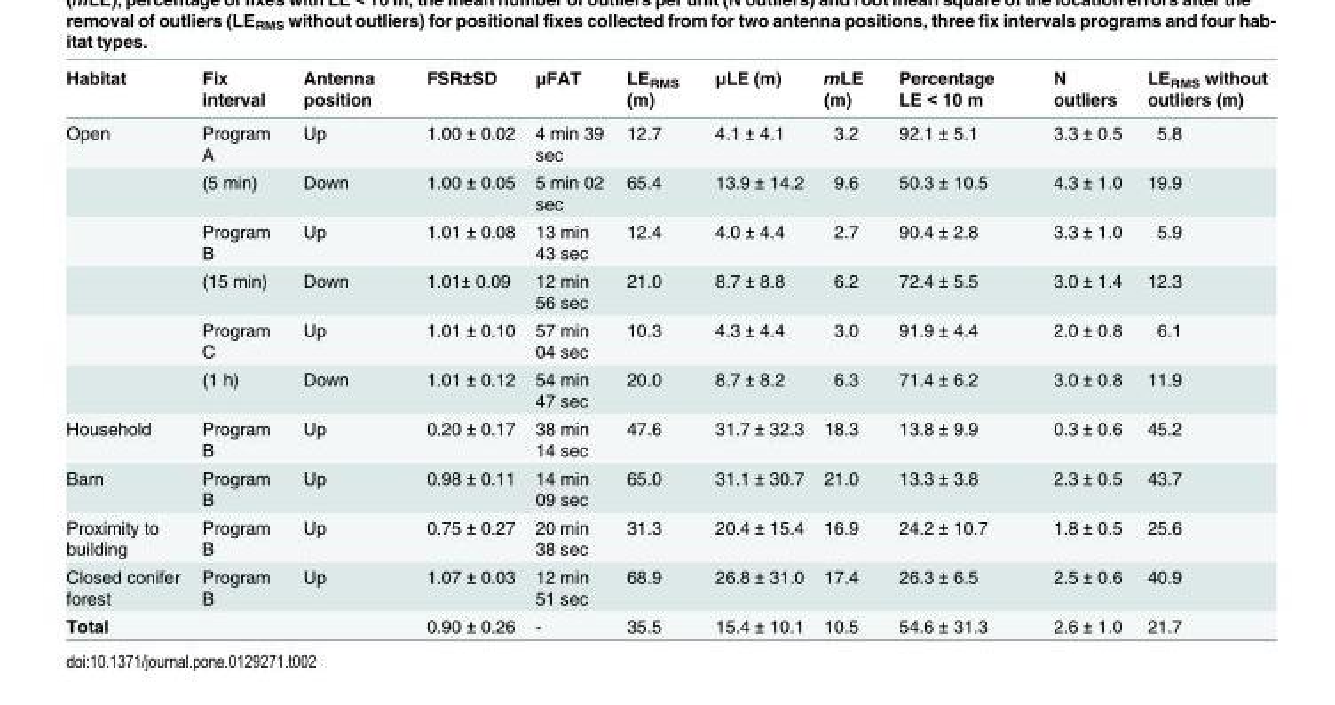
<table><thead><tr><td>Habitat</td><td>Fix interval</td><td>Antenna position</td><td>FSR±SD</td><td>μFAT</td><td>LE<sub>RMS</sub> (m)</td><td>μLE (m)</td><td>mLE (m)</td><td>Percentage LE &lt; 10 m</td><td>N outliers</td><td>LE<sub>RMS</sub> without outliers (m)</td></tr></thead><tbody><tr><td rowspan="6">Open</td><td>Program A</td><td>Up</td><td>1.00 ± 0.02</td><td>4 min 39 sec</td><td>12.7</td><td>4.1 ± 4.1</td><td>3.2</td><td>92.1 ± 5.1</td><td>3.3 ± 0.5</td><td>5.8</td></tr><tr><td>(5 min)</td><td>Down</td><td>1.00 ± 0.05</td><td>5 min 02 sec</td><td>65.4</td><td>13.9 ± 14.2</td><td>9.6</td><td>50.3 ± 10.5</td><td>4.3 ± 1.0</td><td>19.9</td></tr><tr><td>Program B</td><td>Up</td><td>1.01 ± 0.08</td><td>13 min 43 sec</td><td>12.4</td><td>4.0 ± 4.4</td><td>2.7</td><td>90.4 ± 2.8</td><td>3.3 ± 1.0</td><td>5.9</td></tr><tr><td>(15 min)</td><td>Down</td><td>1.01± 0.09</td><td>12 min 56 sec</td><td>21.0</td><td>8.7 ± 8.8</td><td>6.2</td><td>72.4 ± 5.5</td><td>3.0 ± 1.4</td><td>12.3</td></tr><tr><td>Program C</td><td>Up</td><td>1.01 ± 0.10</td><td>57 min 04 sec</td><td>10.3</td><td>4.3 ± 4.4</td><td>3.0</td><td>91.9 ± 4.4</td><td>2.0 ± 0.8</td><td>6.1</td></tr><tr><td>(1 h)</td><td>Down</td><td>1.01 ± 0.12</td><td>54 min 47 sec</td><td>20.0</td><td>8.7 ± 8.2</td><td>6.3</td><td>71.4 ± 6.2</td><td>3.0 ± 0.8</td><td>11.9</td></tr><tr><td>Household</td><td>Program B</td><td>Up</td><td>0.20 ± 0.17</td><td>38 min 14 sec</td><td>47.6</td><td>31.7 ± 32.3</td><td>18.3</td><td>13.8 ± 9.9</td><td>0.3 ± 0.6</td><td>45.2</td></tr><tr><td>Barn</td><td>Program B</td><td>Up</td><td>0.98 ± 0.11</td><td>14 min 09 sec</td><td>65.0</td><td>31.1 ± 30.7</td><td>21.0</td><td>13.3 ± 3.8</td><td>2.3 ± 0.5</td><td>43.7</td></tr><tr><td>Proximity to building</td><td>Program B</td><td>Up</td><td>0.75 ± 0.27</td><td>20 min 38 sec</td><td>31.3</td><td>20.4 ± 15.4</td><td>16.9</td><td>24.2 ± 10.7</td><td>1.8 ± 0.5</td><td>25.6</td></tr><tr><td>Closed conifer forest</td><td>Program B</td><td>Up</td><td>1.07 ± 0.03</td><td>12 min 51 sec</td><td>68.9</td><td>26.8 ± 31.0</td><td>17.4</td><td>26.3 ± 6.5</td><td>2.5 ± 0.6</td><td>40.9</td></tr><tr><td>Total</td><td></td><td></td><td>0.90 ± 0.26</td><td>-</td><td>35.5</td><td>15.4 ± 10.1</td><td>10.5</td><td>54.6 ± 31.3</td><td>2.6 ± 1.0</td><td>21.7</td></tr></tbody></table>